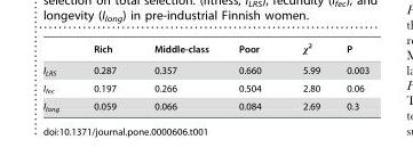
<table><thead><tr><td></td><td>Rich</td><td>Middle-class</td><td>Poor</td><td>χ<sup>2</sup></td><td>P</td></tr></thead><tbody><tr><td>I<sub>LRS</sub></td><td>0.287</td><td>0.357</td><td>0.660</td><td>5.99</td><td>0.003</td></tr><tr><td>I<sub>fec</sub></td><td>0.197</td><td>0.266</td><td>0.504</td><td>2.80</td><td>0.06</td></tr><tr><td>I<sub>long</sub></td><td>0.059</td><td>0.066</td><td>0.084</td><td>2.69</td><td>0.3</td></tr></tbody></table>